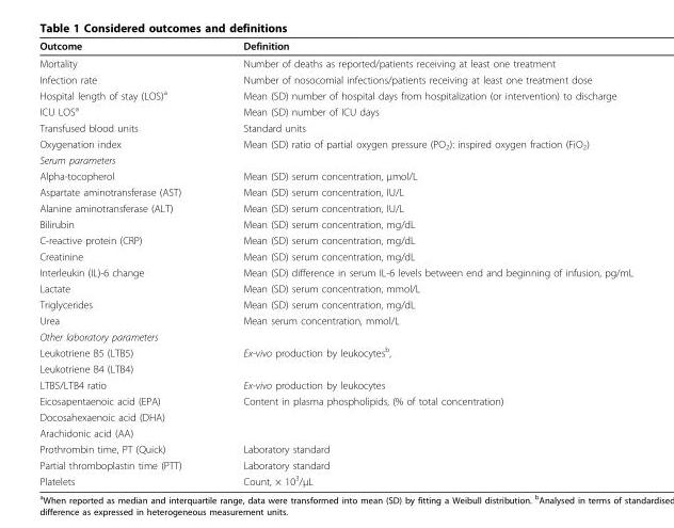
<table><thead><tr><td>Outcome</td><td>Definition</td></tr></thead><tbody><tr><td>Mortality</td><td>Number of deaths as reported/patients receiving at least one treatment</td></tr><tr><td>Infection rate</td><td>Number of nosocomial infections/patients receiving at least one treatment dose</td></tr><tr><td>Hospital length of stay (LOS)<sup>a</sup></td><td>Mean (SD) number of hospital days from hospitalization (or intervention) to discharge</td></tr><tr><td>ICU LOS<sup>a</sup></td><td>Mean (SD) number of ICU days</td></tr><tr><td>Transfused blood units</td><td>Standard units</td></tr><tr><td>Oxygenation index</td><td>Mean (SD) ratio of partial oxygen pressure (PO<sub>2</sub>): inspired oxygen fraction (FiO<sub>2</sub>)</td></tr><tr><td colspan="2">Serum parameters</td></tr><tr><td>Alpha-tocopherol</td><td>Mean (SD) serum concentration, µmol/L</td></tr><tr><td>Aspartate aminotransferase (AST)</td><td>Mean (SD) serum concentration, IU/L</td></tr><tr><td>Alanine aminotransferase (ALT)</td><td>Mean (SD) serum concentration, IU/L</td></tr><tr><td>Bilirubin</td><td>Mean (SD) serum concentration, mg/dL</td></tr><tr><td>C-reactive protein (CRP)</td><td>Mean (SD) serum concentration, mg/dL</td></tr><tr><td>Creatinine</td><td>Mean (SD) serum concentration, mg/dL</td></tr><tr><td>Interleukin (IL)-6 change</td><td>Mean (SD) difference in serum IL-6 levels between end and beginning of infusion, pg/mL</td></tr><tr><td>Lactate</td><td>Mean (SD) serum concentration, mmol/L</td></tr><tr><td>Triglycerides</td><td>Mean (SD) serum concentration, mg/dL</td></tr><tr><td>Urea</td><td>Mean serum concentration, mmol/L</td></tr><tr><td colspan="2">Other laboratory parameters</td></tr><tr><td>Leukotriene B5 (LTB5)</td><td>Ex-vivo production by leukocytes<sup>b</sup>,</td></tr><tr><td colspan="2">Leukotriene B4 (LTB4)</td></tr><tr><td>LTB5/LTB4 ratio</td><td>Ex-vivo production by leukocytes</td></tr><tr><td>Eicosapentaenoic acid (EPA)</td><td>Content in plasma phospholipids, (% of total concentration)</td></tr><tr><td colspan="2">Docosahexaenoic acid (DHA)</td></tr><tr><td colspan="2">Arachidonic acid (AA)</td></tr><tr><td>Prothrombin time, PT (Quick)</td><td>Laboratory standard</td></tr><tr><td>Partial thromboplastin time (PTT)</td><td>Laboratory standard</td></tr><tr><td>Platelets</td><td>Count, × 10<sup>3</sup>/µL</td></tr></tbody></table>